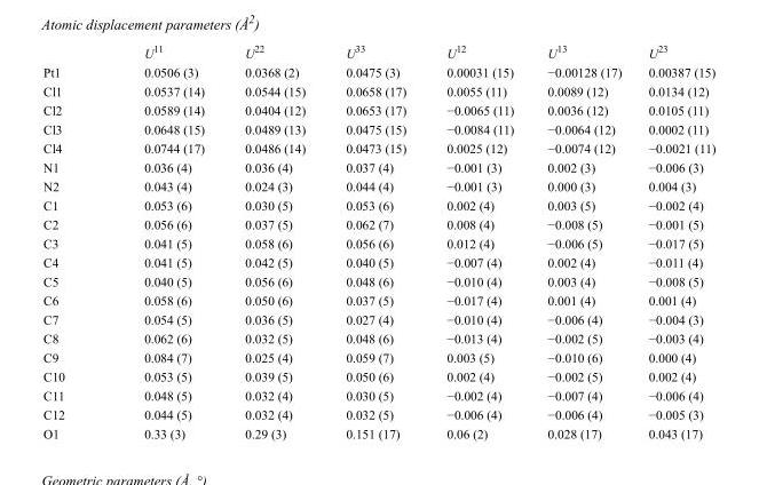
<table><thead><tr><td></td><td>U<sup>11</sup></td><td>U<sup>22</sup></td><td>U<sup>33</sup></td><td>U<sup>12</sup></td><td>U<sup>13</sup></td><td>U<sup>23</sup></td></tr></thead><tbody><tr><td>Pt1</td><td>0.0506 (3)</td><td>0.0368 (2)</td><td>0.0475 (3)</td><td>0.00031 (15)</td><td>−0.00128 (17)</td><td>0.00387 (15)</td></tr><tr><td>Cl1</td><td>0.0537 (14)</td><td>0.0544 (15)</td><td>0.0658 (17)</td><td>0.0055 (11)</td><td>0.0089 (12)</td><td>0.0134 (12)</td></tr><tr><td>Cl2</td><td>0.0589 (14)</td><td>0.0404 (12)</td><td>0.0653 (17)</td><td>−0.0065 (11)</td><td>0.0036 (12)</td><td>0.0105 (11)</td></tr><tr><td>Cl3</td><td>0.0648 (15)</td><td>0.0489 (13)</td><td>0.0475 (15)</td><td>−0.0084 (11)</td><td>−0.0064 (12)</td><td>0.0002 (11)</td></tr><tr><td>Cl4</td><td>0.0744 (17)</td><td>0.0486 (14)</td><td>0.0473 (15)</td><td>0.0025 (12)</td><td>−0.0074 (12)</td><td>−0.0021 (11)</td></tr><tr><td>N1</td><td>0.036 (4)</td><td>0.036 (4)</td><td>0.037 (4)</td><td>−0.001 (3)</td><td>0.002 (3)</td><td>−0.006 (3)</td></tr><tr><td>N2</td><td>0.043 (4)</td><td>0.024 (3)</td><td>0.044 (4)</td><td>−0.001 (3)</td><td>0.000 (3)</td><td>0.004 (3)</td></tr><tr><td>C1</td><td>0.053 (6)</td><td>0.030 (5)</td><td>0.053 (6)</td><td>0.002 (4)</td><td>0.003 (5)</td><td>−0.002 (4)</td></tr><tr><td>C2</td><td>0.056 (6)</td><td>0.037 (5)</td><td>0.062 (7)</td><td>0.008 (4)</td><td>−0.008 (5)</td><td>−0.001 (5)</td></tr><tr><td>C3</td><td>0.041 (5)</td><td>0.058 (6)</td><td>0.056 (6)</td><td>0.012 (4)</td><td>−0.006 (5)</td><td>−0.017 (5)</td></tr><tr><td>C4</td><td>0.041 (5)</td><td>0.042 (5)</td><td>0.040 (5)</td><td>−0.007 (4)</td><td>0.002 (4)</td><td>−0.011 (4)</td></tr><tr><td>C5</td><td>0.040 (5)</td><td>0.056 (6)</td><td>0.048 (6)</td><td>−0.010 (4)</td><td>0.003 (4)</td><td>−0.008 (5)</td></tr><tr><td>C6</td><td>0.058 (6)</td><td>0.050 (6)</td><td>0.037 (5)</td><td>−0.017 (4)</td><td>0.001 (4)</td><td>0.001 (4)</td></tr><tr><td>C7</td><td>0.054 (5)</td><td>0.036 (5)</td><td>0.027 (4)</td><td>−0.010 (4)</td><td>−0.006 (4)</td><td>−0.004 (3)</td></tr><tr><td>C8</td><td>0.062 (6)</td><td>0.032 (5)</td><td>0.048 (6)</td><td>−0.013 (4)</td><td>−0.002 (5)</td><td>−0.003 (4)</td></tr><tr><td>C9</td><td>0.084 (7)</td><td>0.025 (4)</td><td>0.059 (7)</td><td>0.003 (5)</td><td>−0.010 (6)</td><td>0.000 (4)</td></tr><tr><td>C10</td><td>0.053 (5)</td><td>0.039 (5)</td><td>0.050 (6)</td><td>0.002 (4)</td><td>−0.002 (5)</td><td>0.002 (4)</td></tr><tr><td>C11</td><td>0.048 (5)</td><td>0.032 (4)</td><td>0.030 (5)</td><td>−0.002 (4)</td><td>−0.007 (4)</td><td>−0.006 (4)</td></tr><tr><td>C12</td><td>0.044 (5)</td><td>0.032 (4)</td><td>0.032 (5)</td><td>−0.006 (4)</td><td>−0.006 (4)</td><td>−0.005 (3)</td></tr><tr><td>O1</td><td>0.33 (3)</td><td>0.29 (3)</td><td>0.151 (17)</td><td>0.06 (2)</td><td>0.028 (17)</td><td>0.043 (17)</td></tr></tbody></table>